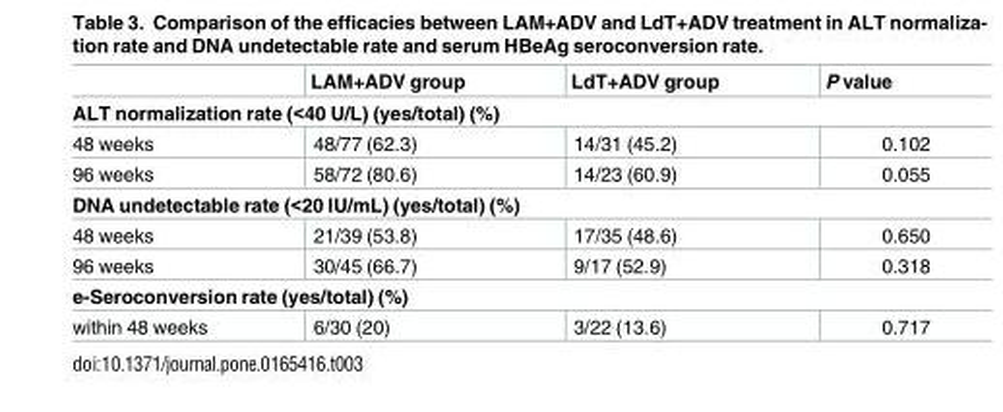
<table><thead><tr><td></td><td>LAM+ADV group</td><td>LdT+ADV group</td><td>P value</td></tr></thead><tbody><tr><td colspan="4">ALT normalization rate (&lt;40 U/L) (yes/total) (%)</td></tr><tr><td>48 weeks</td><td>48/77 (62.3)</td><td>14/31 (45.2)</td><td>0.102</td></tr><tr><td>96 weeks</td><td>58/72 (80.6)</td><td>14/23 (60.9)</td><td>0.055</td></tr><tr><td colspan="4">DNA undetectable rate (&lt;20 IU/mL) (yes/total) (%)</td></tr><tr><td>48 weeks</td><td>21/39 (53.8)</td><td>17/35 (48.6)</td><td>0.650</td></tr><tr><td>96 weeks</td><td>30/45 (66.7)</td><td>9/17 (52.9)</td><td>0.318</td></tr><tr><td colspan="4">e-Seroconversion rate (yes/total) (%)</td></tr><tr><td>within 48 weeks</td><td>6/30 (20)</td><td>3/22 (13.6)</td><td>0.717</td></tr></tbody></table>